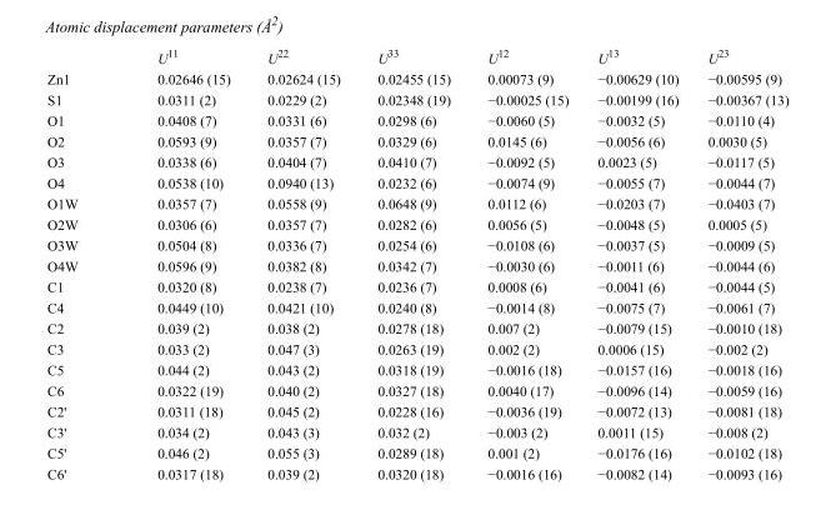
<table><thead><tr><td></td><td>U<sup>11</sup></td><td>U<sup>22</sup></td><td>U<sup>33</sup></td><td>U<sup>12</sup></td><td>U<sup>13</sup></td><td>U<sup>23</sup></td></tr></thead><tbody><tr><td>Zn1</td><td>0.02646 (15)</td><td>0.02624 (15)</td><td>0.02455 (15)</td><td>0.00073 (9)</td><td>−0.00629 (10)</td><td>−0.00595 (9)</td></tr><tr><td>S1</td><td>0.0311 (2)</td><td>0.0229 (2)</td><td>0.02348 (19)</td><td>−0.00025 (15)</td><td>−0.00199 (16)</td><td>−0.00367 (13)</td></tr><tr><td>O1</td><td>0.0408 (7)</td><td>0.0331 (6)</td><td>0.0298 (6)</td><td>−0.0060 (5)</td><td>−0.0032 (5)</td><td>−0.0110 (4)</td></tr><tr><td>O2</td><td>0.0593 (9)</td><td>0.0357 (7)</td><td>0.0329 (6)</td><td>0.0145 (6)</td><td>−0.0056 (6)</td><td>0.0030 (5)</td></tr><tr><td>O3</td><td>0.0338 (6)</td><td>0.0404 (7)</td><td>0.0410 (7)</td><td>−0.0092 (5)</td><td>0.0023 (5)</td><td>−0.0117 (5)</td></tr><tr><td>O4</td><td>0.0538 (10)</td><td>0.0940 (13)</td><td>0.0232 (6)</td><td>−0.0074 (9)</td><td>−0.0055 (7)</td><td>−0.0044 (7)</td></tr><tr><td>O1W</td><td>0.0357 (7)</td><td>0.0558 (9)</td><td>0.0648 (9)</td><td>0.0112 (6)</td><td>−0.0203 (7)</td><td>−0.0403 (7)</td></tr><tr><td>O2W</td><td>0.0306 (6)</td><td>0.0357 (7)</td><td>0.0282 (6)</td><td>0.0056 (5)</td><td>−0.0048 (5)</td><td>0.0005 (5)</td></tr><tr><td>O3W</td><td>0.0504 (8)</td><td>0.0336 (7)</td><td>0.0254 (6)</td><td>−0.0108 (6)</td><td>−0.0037 (5)</td><td>−0.0009 (5)</td></tr><tr><td>O4W</td><td>0.0596 (9)</td><td>0.0382 (8)</td><td>0.0342 (7)</td><td>−0.0030 (6)</td><td>−0.0011 (6)</td><td>−0.0044 (6)</td></tr><tr><td>C1</td><td>0.0320 (8)</td><td>0.0238 (7)</td><td>0.0236 (7)</td><td>0.0008 (6)</td><td>−0.0041 (6)</td><td>−0.0044 (5)</td></tr><tr><td>C4</td><td>0.0449 (10)</td><td>0.0421 (10)</td><td>0.0240 (8)</td><td>−0.0014 (8)</td><td>−0.0075 (7)</td><td>−0.0061 (7)</td></tr><tr><td>C2</td><td>0.039 (2)</td><td>0.038 (2)</td><td>0.0278 (18)</td><td>0.007 (2)</td><td>−0.0079 (15)</td><td>−0.0010 (18)</td></tr><tr><td>C3</td><td>0.033 (2)</td><td>0.047 (3)</td><td>0.0263 (19)</td><td>0.002 (2)</td><td>0.0006 (15)</td><td>−0.002 (2)</td></tr><tr><td>C5</td><td>0.044 (2)</td><td>0.043 (2)</td><td>0.0318 (19)</td><td>−0.0016 (18)</td><td>−0.0157 (16)</td><td>−0.0018 (16)</td></tr><tr><td>C6</td><td>0.0322 (19)</td><td>0.040 (2)</td><td>0.0327 (18)</td><td>0.0040 (17)</td><td>−0.0096 (14)</td><td>−0.0059 (16)</td></tr><tr><td>C2&#x27;</td><td>0.0311 (18)</td><td>0.045 (2)</td><td>0.0228 (16)</td><td>−0.0036 (19)</td><td>−0.0072 (13)</td><td>−0.0081 (18)</td></tr><tr><td>C3&#x27;</td><td>0.034 (2)</td><td>0.043 (3)</td><td>0.032 (2)</td><td>−0.003 (2)</td><td>0.0011 (15)</td><td>−0.008 (2)</td></tr><tr><td>C5&#x27;</td><td>0.046 (2)</td><td>0.055 (3)</td><td>0.0289 (18)</td><td>0.001 (2)</td><td>−0.0176 (16)</td><td>−0.0102 (18)</td></tr><tr><td>C6&#x27;</td><td>0.0317 (18)</td><td>0.039 (2)</td><td>0.0320 (18)</td><td>−0.0016 (16)</td><td>−0.0082 (14)</td><td>−0.0093 (16)</td></tr></tbody></table>